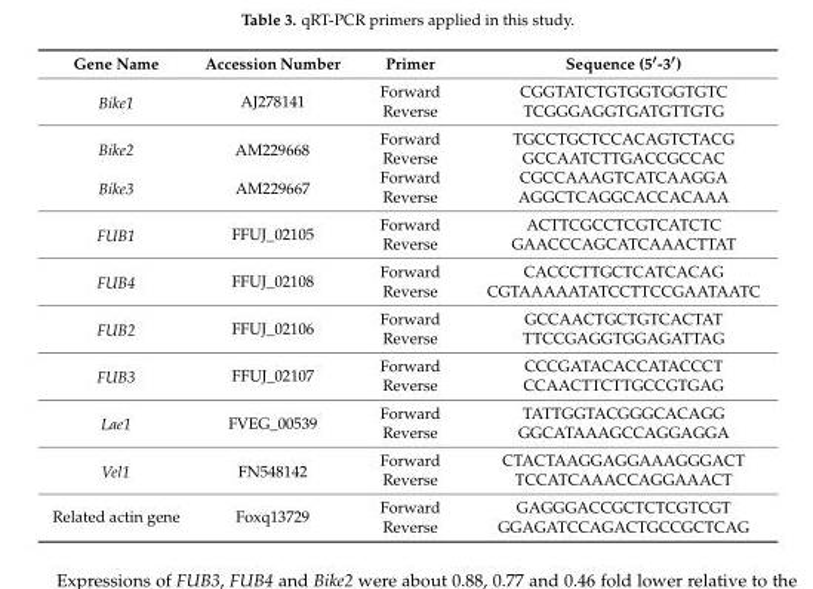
<table><thead><tr><td>Gene Name</td><td>Accession Number</td><td>Primer</td><td>Sequence (5′-3′)</td></tr></thead><tbody><tr><td rowspan="2">Bike1</td><td rowspan="2">AJ278141</td><td>Forward</td><td>CGGTATCTGTGGTGGTGTC</td></tr><tr><td>Reverse</td><td>TCGGGAGGTGATGTTGTG</td></tr><tr><td rowspan="2">Bike2</td><td rowspan="2">AM229668</td><td>Forward</td><td>TGCCTGCTCCACAGTCTACG</td></tr><tr><td>Reverse</td><td>GCCAATCTTGACCGCCAC</td></tr><tr><td rowspan="2">Bike3</td><td rowspan="2">AM229667</td><td>Forward</td><td>CGCCAAAGTCATCAAGGA</td></tr><tr><td>Reverse</td><td>AGGCTCAGGCACCACAAA</td></tr><tr><td rowspan="2">FUB1</td><td rowspan="2">FFUJ_02105</td><td>Forward</td><td>ACTTCGCCTCGTCATCTC</td></tr><tr><td>Reverse</td><td>GAACCCAGCATCAAACTTAT</td></tr><tr><td rowspan="2">FUB4</td><td rowspan="2">FFUJ_02108</td><td>Forward</td><td>CACCCTTGCTCATCACAG</td></tr><tr><td>Reverse</td><td>CGTAAAAATATCCTTCCGAATAATC</td></tr><tr><td rowspan="2">FUB2</td><td rowspan="2">FFUJ_02106</td><td>Forward</td><td>GCCAACTGCTGTCACTAT</td></tr><tr><td>Reverse</td><td>TTCCGAGGTGGAGATTAG</td></tr><tr><td rowspan="2">FUB3</td><td rowspan="2">FFUJ_02107</td><td>Forward</td><td>CCCGATACACCATACCCT</td></tr><tr><td>Reverse</td><td>CCAACTTCTTGCCGTGAG</td></tr><tr><td rowspan="2">Lae1</td><td rowspan="2">FVEG_00539</td><td>Forward</td><td>TATTGGTACGGGCACAGG</td></tr><tr><td>Reverse</td><td>GGCATAAAGCCAGGAGGA</td></tr><tr><td rowspan="2">Vel1</td><td rowspan="2">FN548142</td><td>Forward</td><td>CTACTAAGGAGGAAAGGGACT</td></tr><tr><td>Reverse</td><td>TCCATCAAACCAGGAAACT</td></tr><tr><td rowspan="2">Related actin gene</td><td rowspan="2">Foxq13729</td><td>Forward</td><td>GAGGGACCGCTCTCGTCGT</td></tr><tr><td>Reverse</td><td>GGAGATCCAGACTGCCGCTCAG</td></tr></tbody></table>